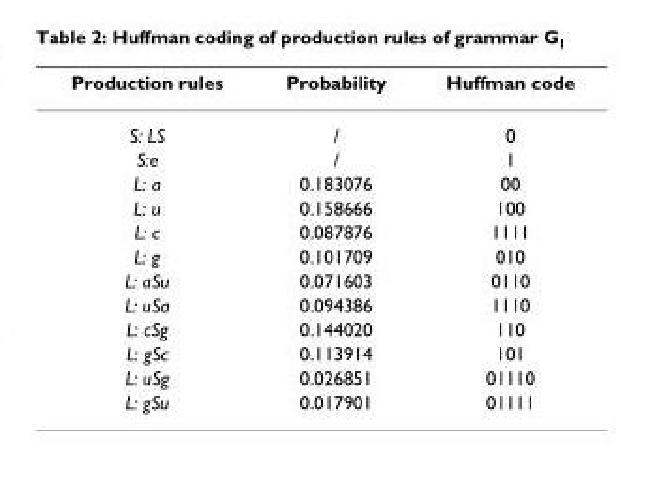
<table><thead><tr><td>Production rules</td><td>Probability</td><td>Huffman code</td></tr></thead><tbody><tr><td>S: LS</td><td>/</td><td>0</td></tr><tr><td>S:e</td><td>/</td><td>1</td></tr><tr><td>L: a</td><td>0.183076</td><td>00</td></tr><tr><td>L: u</td><td>0.158666</td><td>100</td></tr><tr><td>L: c</td><td>0.087876</td><td>1111</td></tr><tr><td>L: g</td><td>0.101709</td><td>010</td></tr><tr><td>L: aSu</td><td>0.071603</td><td>0110</td></tr><tr><td>L: uSa</td><td>0.094386</td><td>1110</td></tr><tr><td>L: cSg</td><td>0.144020</td><td>110</td></tr><tr><td>L: gSc</td><td>0.113914</td><td>101</td></tr><tr><td>L: uSg</td><td>0.026851</td><td>01110</td></tr><tr><td>L: gSu</td><td>0.017901</td><td>01111</td></tr></tbody></table>